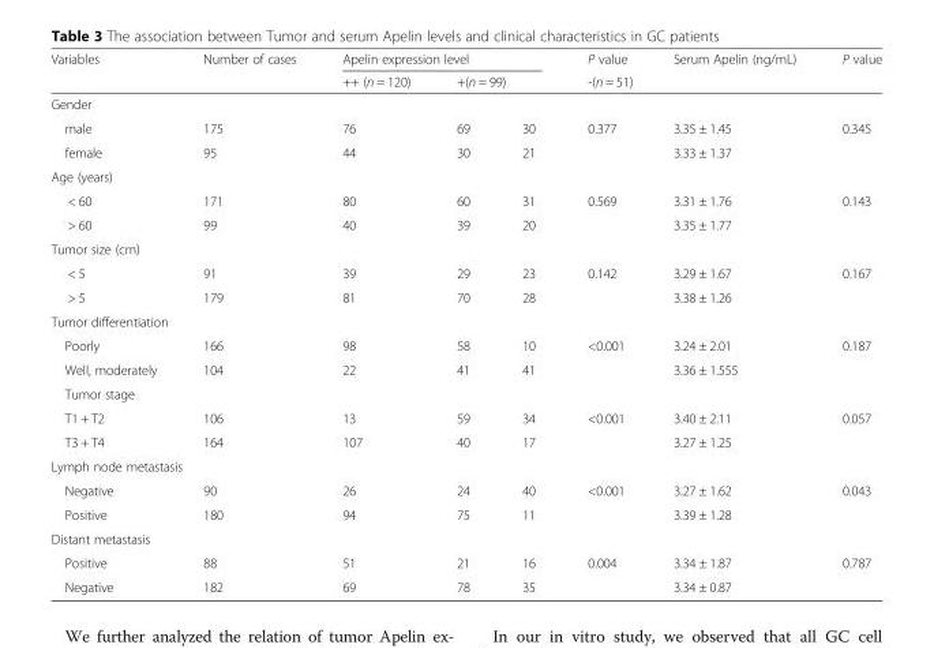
<table><thead><tr><td rowspan="2">Variables</td><td rowspan="2">Number of cases</td><td colspan="3">Apelin expression level</td><td>P value</td><td>Serum Apelin (ng/mL)</td><td>P value</td></tr><tr><td>++ (n = 120)</td><td colspan="2">+(n = 99)</td><td colspan="3">-(n = 51)</td></tr><tr><td colspan="8">Gender</td></tr><tr><td>male</td><td>175</td><td>76</td><td>69</td><td>30</td><td>0.377</td><td>3.35 ± 1.45</td><td>0.345</td></tr></thead><tbody><tr><td>female</td><td>95</td><td>44</td><td>30</td><td>21</td><td></td><td>3.33 ± 1.37</td><td></td></tr><tr><td colspan="8">Age (years)</td></tr><tr><td>&lt; 60</td><td>171</td><td>80</td><td>60</td><td>31</td><td>0.569</td><td>3.31 ± 1.76</td><td>0.143</td></tr><tr><td>&gt; 60</td><td>99</td><td>40</td><td>39</td><td>20</td><td></td><td>3.35 ± 1.77</td><td></td></tr><tr><td colspan="8">Tumor size (cm)</td></tr><tr><td>&lt; 5</td><td>91</td><td>39</td><td>29</td><td>23</td><td>0.142</td><td>3.29 ± 1.67</td><td>0.167</td></tr><tr><td>&gt; 5</td><td>179</td><td>81</td><td>70</td><td>28</td><td></td><td>3.38 ± 1.26</td><td></td></tr><tr><td colspan="8">Tumor differentiation</td></tr><tr><td>Poorly</td><td>166</td><td>98</td><td>58</td><td>10</td><td>&lt;0.001</td><td>3.24 ± 2.01</td><td>0.187</td></tr><tr><td>Well, moderately</td><td>104</td><td>22</td><td>41</td><td>41</td><td></td><td>3.36 ± 1.555</td><td></td></tr><tr><td colspan="8">Tumor stage</td></tr><tr><td>T1 + T2</td><td>106</td><td>13</td><td>59</td><td>34</td><td>&lt;0.001</td><td>3.40 ± 2.11</td><td>0.057</td></tr><tr><td>T3 + T4</td><td>164</td><td>107</td><td>40</td><td>17</td><td></td><td>3.27 ± 1.25</td><td></td></tr><tr><td colspan="8">Lymph node metastasis</td></tr><tr><td>Negative</td><td>90</td><td>26</td><td>24</td><td>40</td><td>&lt;0.001</td><td>3.27 ± 1.62</td><td>0.043</td></tr><tr><td>Positive</td><td>180</td><td>94</td><td>75</td><td>11</td><td></td><td>3.39 ± 1.28</td><td></td></tr><tr><td colspan="8">Distant metastasis</td></tr><tr><td>Positive</td><td>88</td><td>51</td><td>21</td><td>16</td><td>0.004</td><td>3.34 ± 1.87</td><td>0.787</td></tr><tr><td>Negative</td><td>182</td><td>69</td><td>78</td><td>35</td><td></td><td>3.34 ± 0.87</td><td></td></tr></tbody></table>